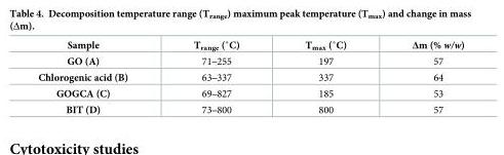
<table><thead><tr><td>Sample</td><td>Trange (˚C)</td><td>Tmax (˚C)</td><td>Δm (% w/w)</td></tr></thead><tbody><tr><td>GO (A)</td><td>71‒255</td><td>197</td><td>57</td></tr><tr><td>Chlorogenic acid (B)</td><td>63‒337</td><td>337</td><td>64</td></tr><tr><td>GOGCA (C)</td><td>69‒827</td><td>185</td><td>53</td></tr><tr><td>BIT (D)</td><td>73‒800</td><td>800</td><td>57</td></tr></tbody></table>